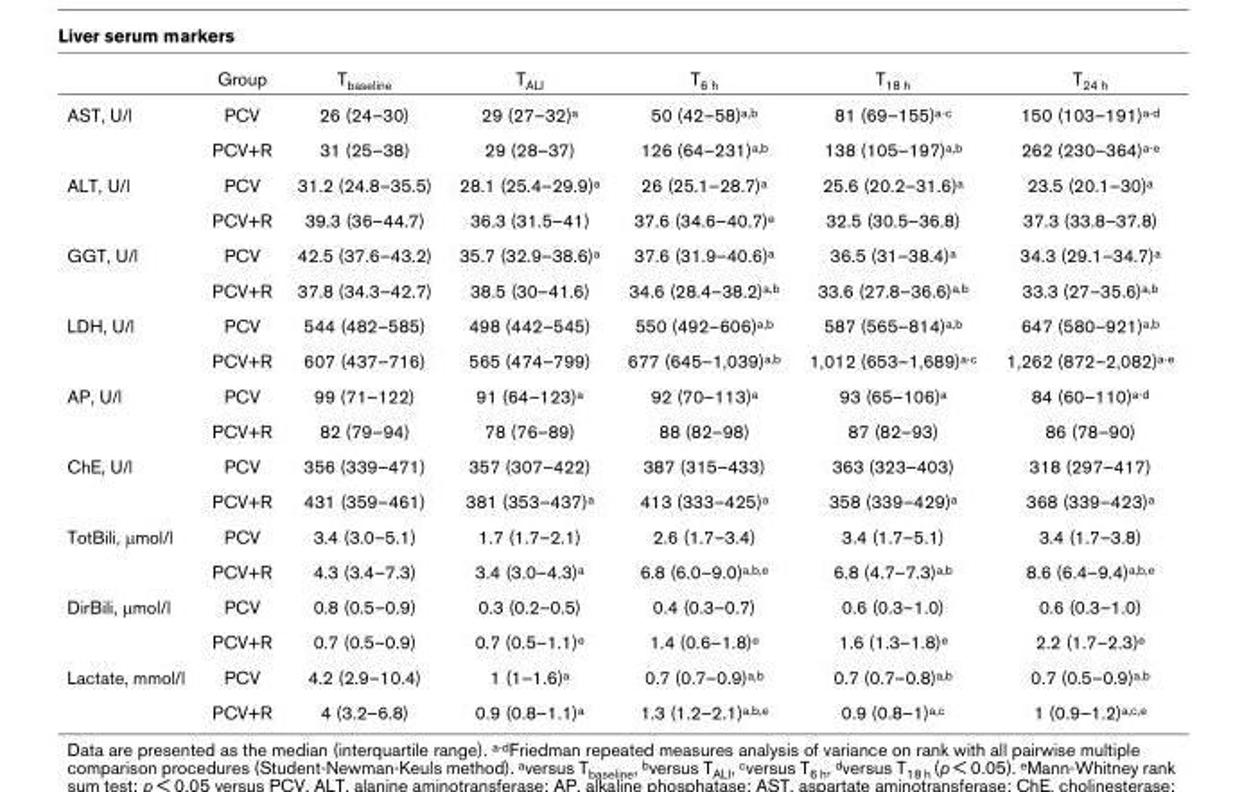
<table><thead><tr><td></td><td>Group</td><td>T<sub>baseline</sub></td><td>T<sub>ALI</sub></td><td>T<sub>6 h</sub></td><td>T<sub>18 h</sub></td><td>T<sub>24 h</sub></td></tr></thead><tbody><tr><td rowspan="2">AST, U/l</td><td>PCV</td><td>26 (24–30)</td><td>29 (27–32)<sup>a</sup></td><td>50 (42–58)<sup>a,b</sup></td><td>81 (69–155)<sup>a-c</sup></td><td>150 (103–191)<sup>a-d</sup></td></tr><tr><td>PCV+R</td><td>31 (25–38)</td><td>29 (28–37)</td><td>126 (64–231)<sup>a,b</sup></td><td>138 (105–197)<sup>a,b</sup></td><td>262 (230–364)<sup>a-e</sup></td></tr><tr><td rowspan="2">ALT, U/l</td><td>PCV</td><td>31.2 (24.8–35.5)</td><td>28.1 (25.4–29.9)<sup>a</sup></td><td>26 (25.1–28.7)<sup>a</sup></td><td>25.6 (20.2–31.6)<sup>a</sup></td><td>23.5 (20.1–30)<sup>a</sup></td></tr><tr><td>PCV+R</td><td>39.3 (36–44.7)</td><td>36.3 (31.5–41)</td><td>37.6 (34.6–40.7)<sup>e</sup></td><td>32.5 (30.5–36.8)</td><td>37.3 (33.8–37.8)</td></tr><tr><td rowspan="2">GGT, U/l</td><td>PCV</td><td>42.5 (37.6–43.2)</td><td>35.7 (32.9–38.6)<sup>a</sup></td><td>37.6 (31.9–40.6)<sup>a</sup></td><td>36.5 (31–38.4)<sup>a</sup></td><td>34.3 (29.1–34.7)<sup>a</sup></td></tr><tr><td>PCV+R</td><td>37.8 (34.3–42.7)</td><td>38.5 (30–41.6)</td><td>34.6 (28.4–38.2)<sup>a,b</sup></td><td>33.6 (27.8–36.6)<sup>a,b</sup></td><td>33.3 (27–35.6)<sup>a,b</sup></td></tr><tr><td rowspan="2">LDH, U/l</td><td>PCV</td><td>544 (482–585)</td><td>498 (442–545)</td><td>550 (492–606)<sup>a,b</sup></td><td>587 (565–814)<sup>a,b</sup></td><td>647 (580–921)<sup>a,b</sup></td></tr><tr><td>PCV+R</td><td>607 (437–716)</td><td>565 (474–799)</td><td>677 (645–1,039)<sup>a,b</sup></td><td>1,012 (653–1,689)<sup>a-c</sup></td><td>1,262 (872–2,082)<sup>a-e</sup></td></tr><tr><td rowspan="2">AP, U/l</td><td>PCV</td><td>99 (71–122)</td><td>91 (64–123)<sup>a</sup></td><td>92 (70–113)<sup>a</sup></td><td>93 (65–106)<sup>a</sup></td><td>84 (60–110)<sup>a-d</sup></td></tr><tr><td>PCV+R</td><td>82 (79–94)</td><td>78 (76–89)</td><td>88 (82–98)</td><td>87 (82–93)</td><td>86 (78–90)</td></tr><tr><td rowspan="2">ChE, U/l</td><td>PCV</td><td>356 (339–471)</td><td>357 (307–422)</td><td>387 (315–433)</td><td>363 (323–403)</td><td>318 (297–417)</td></tr><tr><td>PCV+R</td><td>431 (359–461)</td><td>381 (353–437)<sup>a</sup></td><td>413 (333–425)<sup>a</sup></td><td>358 (339–429)<sup>a</sup></td><td>368 (339–423)<sup>a</sup></td></tr><tr><td rowspan="2">TotBili, μmol/l</td><td>PCV</td><td>3.4 (3.0–5.1)</td><td>1.7 (1.7–2.1)</td><td>2.6 (1.7–3.4)</td><td>3.4 (1.7–5.1)</td><td>3.4 (1.7–3.8)</td></tr><tr><td>PCV+R</td><td>4.3 (3.4–7.3)</td><td>3.4 (3.0–4.3)<sup>a</sup></td><td>6.8 (6.0–9.0)<sup>a,b,e</sup></td><td>6.8 (4.7–7.3)<sup>a,b</sup></td><td>8.6 (6.4–9.4)<sup>a,b,e</sup></td></tr><tr><td rowspan="2">DirBili, μmol/l</td><td>PCV</td><td>0.8 (0.5–0.9)</td><td>0.3 (0.2–0.5)</td><td>0.4 (0.3–0.7)</td><td>0.6 (0.3–1.0)</td><td>0.6 (0.3–1.0)</td></tr><tr><td>PCV+R</td><td>0.7 (0.5–0.9)</td><td>0.7 (0.5–1.1)<sup>e</sup></td><td>1.4 (0.6–1.8)<sup>e</sup></td><td>1.6 (1.3–1.8)<sup>e</sup></td><td>2.2 (1.7–2.3)<sup>e</sup></td></tr><tr><td rowspan="2">Lactate, mmol/l</td><td>PCV</td><td>4.2 (2.9–10.4)</td><td>1 (1–1.6)<sup>a</sup></td><td>0.7 (0.7–0.9)<sup>a,b</sup></td><td>0.7 (0.7–0.8)<sup>a,b</sup></td><td>0.7 (0.5–0.9)<sup>a,b</sup></td></tr><tr><td>PCV+R</td><td>4 (3.2–6.8)</td><td>0.9 (0.8–1.1)<sup>a</sup></td><td>1.3 (1.2–2.1)<sup>a,b,e</sup></td><td>0.9 (0.8–1)<sup>a,c</sup></td><td>1 (0.9–1.2)<sup>a,c,e</sup></td></tr></tbody></table>